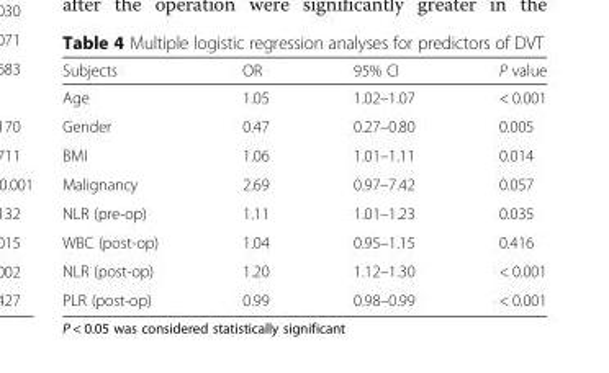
<table><thead><tr><td>Subjects</td><td>OR</td><td>95% CI</td><td>P value</td></tr></thead><tbody><tr><td>Age</td><td>1.05</td><td>1.02–1.07</td><td>&lt; 0.001</td></tr><tr><td>Gender</td><td>0.47</td><td>0.27–0.80</td><td>0.005</td></tr><tr><td>BMI</td><td>1.06</td><td>1.01–1.11</td><td>0.014</td></tr><tr><td>Malignancy</td><td>2.69</td><td>0.97–7.42</td><td>0.057</td></tr><tr><td>NLR (pre-op)</td><td>1.11</td><td>1.01–1.23</td><td>0.035</td></tr><tr><td>WBC (post-op)</td><td>1.04</td><td>0.95–1.15</td><td>0.416</td></tr><tr><td>NLR (post-op)</td><td>1.20</td><td>1.12–1.30</td><td>&lt; 0.001</td></tr><tr><td>PLR (post-op)</td><td>0.99</td><td>0.98–0.99</td><td>&lt; 0.001</td></tr></tbody></table>